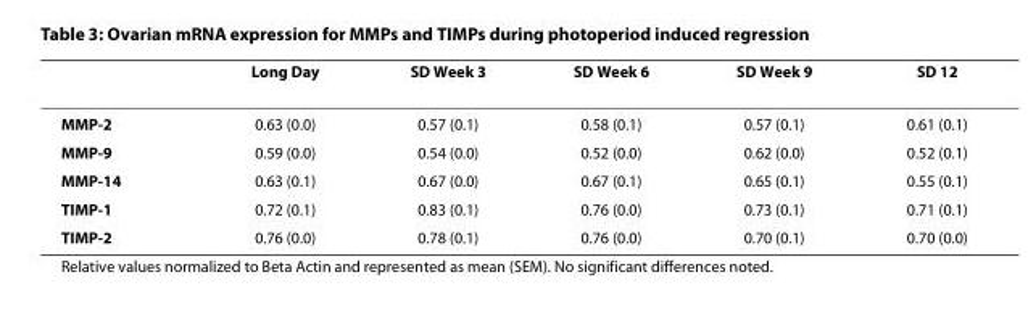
<table><thead><tr><td></td><td>Long Day</td><td>SD Week 3</td><td>SD Week 6</td><td>SD Week 9</td><td>SD 12</td></tr></thead><tbody><tr><td>MMP-2</td><td>0.63 (0.0)</td><td>0.57 (0.1)</td><td>0.58 (0.1)</td><td>0.57 (0.1)</td><td>0.61 (0.1)</td></tr><tr><td>MMP-9</td><td>0.59 (0.0)</td><td>0.54 (0.0)</td><td>0.52 (0.0)</td><td>0.62 (0.0)</td><td>0.52 (0.1)</td></tr><tr><td>MMP-14</td><td>0.63 (0.1)</td><td>0.67 (0.0)</td><td>0.67 (0.1)</td><td>0.65 (0.1)</td><td>0.55 (0.1)</td></tr><tr><td>TIMP-1</td><td>0.72 (0.1)</td><td>0.83 (0.1)</td><td>0.76 (0.0)</td><td>0.73 (0.1)</td><td>0.71 (0.1)</td></tr><tr><td>TIMP-2</td><td>0.76 (0.0)</td><td>0.78 (0.1)</td><td>0.76 (0.0)</td><td>0.70 (0.1)</td><td>0.70 (0.0)</td></tr></tbody></table>